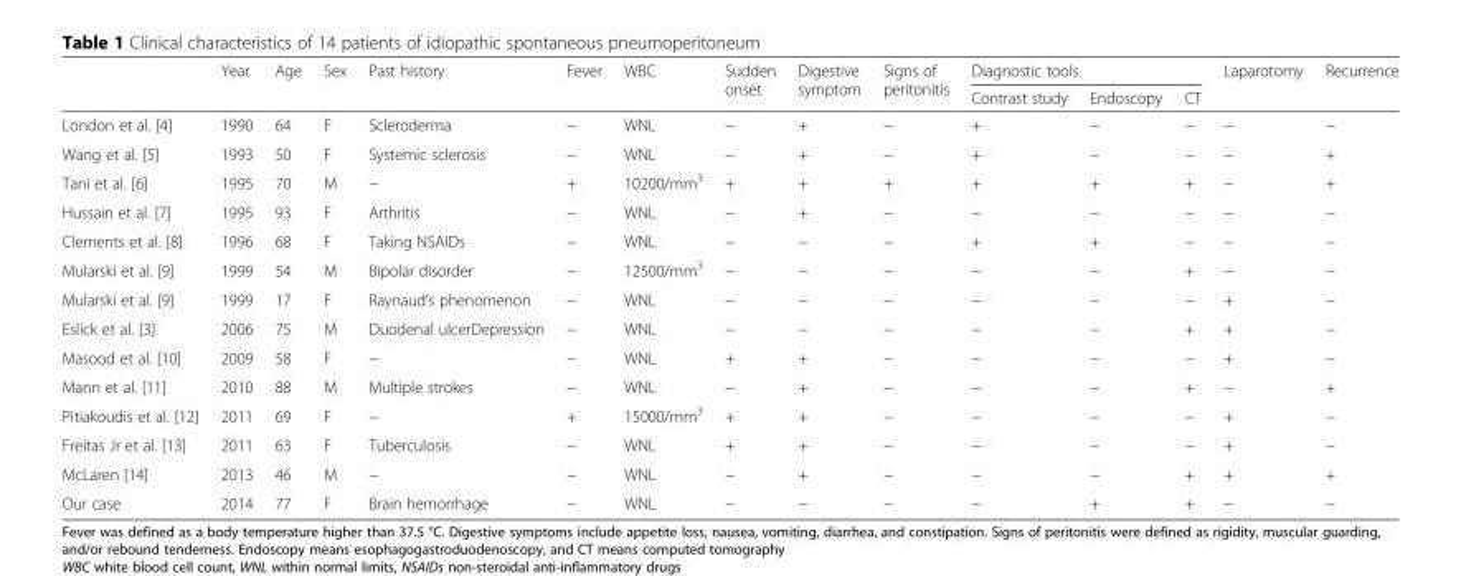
<table><thead><tr><td rowspan="2"></td><td rowspan="2">Year</td><td rowspan="2">Age</td><td rowspan="2">Sex</td><td rowspan="2">Past history</td><td rowspan="2">Fever</td><td rowspan="2">WBC</td><td rowspan="2">Sudden onset</td><td rowspan="2">Digestive symptom</td><td rowspan="2">Signs of peritonitis</td><td colspan="3">Diagnostic tools</td><td rowspan="2">Laparotomy</td><td rowspan="2">Recurrence</td></tr><tr><td>Contrast study</td><td>Endoscopy</td><td>CT</td></tr></thead><tbody><tr><td>London et al. [4]</td><td>1990</td><td>64</td><td>F</td><td>Scleroderma</td><td>−</td><td>WNL</td><td>−</td><td>+</td><td>−</td><td>+</td><td>−</td><td>−</td><td>−</td><td>−</td></tr><tr><td>Wang et al. [5]</td><td>1993</td><td>50</td><td>F</td><td>Systemic sclerosis</td><td>−</td><td>WNL</td><td>−</td><td>+</td><td>−</td><td>+</td><td>−</td><td>−</td><td>−</td><td>+</td></tr><tr><td>Tani et al. [6]</td><td>1995</td><td>70</td><td>M</td><td>−</td><td>+</td><td>10200/mm<sup>3</sup></td><td>+</td><td>+</td><td>+</td><td>+</td><td>+</td><td>+</td><td>−</td><td>+</td></tr><tr><td>Hussain et al. [7]</td><td>1995</td><td>93</td><td>F</td><td>Arthritis</td><td>−</td><td>WNL</td><td>−</td><td>+</td><td>−</td><td>−</td><td>−</td><td>−</td><td>−</td><td>−</td></tr><tr><td>Clements et al. [8]</td><td>1996</td><td>68</td><td>F</td><td>Taking NSAIDs</td><td>−</td><td>WNL</td><td>−</td><td>−</td><td>−</td><td>+</td><td>+</td><td>−</td><td>−</td><td>−</td></tr><tr><td>Mularski et al. [9]</td><td>1999</td><td>54</td><td>M</td><td>Bipolar disorder</td><td>−</td><td>12500/mm<sup>3</sup></td><td>−</td><td>−</td><td>−</td><td>−</td><td>−</td><td>+</td><td>−</td><td>−</td></tr><tr><td>Mularski et al. [9]</td><td>1999</td><td>17</td><td>F</td><td>Raynaud’s phenomenon</td><td>−</td><td>WNL</td><td>−</td><td>−</td><td>−</td><td>−</td><td>−</td><td>−</td><td>+</td><td>−</td></tr><tr><td>Eslick et al. [3]</td><td>2006</td><td>75</td><td>M</td><td>Duodenal ulcerDepression</td><td>−</td><td>WNL</td><td>−</td><td>−</td><td>−</td><td>−</td><td>−</td><td>+</td><td>+</td><td>−</td></tr><tr><td>Masood et al. [10]</td><td>2009</td><td>58</td><td>F</td><td>−</td><td>−</td><td>WNL</td><td>+</td><td>+</td><td>−</td><td>−</td><td>−</td><td>−</td><td>+</td><td>−</td></tr><tr><td>Mann et al. [11]</td><td>2010</td><td>88</td><td>M</td><td>Multiple strokes</td><td>−</td><td>WNL</td><td>−</td><td>+</td><td>−</td><td>−</td><td>−</td><td>+</td><td>−</td><td>+</td></tr><tr><td>Pitiakoudis et al. [12]</td><td>2011</td><td>69</td><td>F</td><td>−</td><td>+</td><td>15000/mm<sup>3</sup></td><td>+</td><td>+</td><td>−</td><td>−</td><td>−</td><td>−</td><td>+</td><td>−</td></tr><tr><td>Freitas Jr et al. [13]</td><td>2011</td><td>63</td><td>F</td><td>Tuberculosis</td><td>−</td><td>WNL</td><td>+</td><td>+</td><td>−</td><td>−</td><td>−</td><td>−</td><td>+</td><td>−</td></tr><tr><td>McLaren [14]</td><td>2013</td><td>46</td><td>M</td><td>−</td><td>−</td><td>WNL</td><td>−</td><td>+</td><td>−</td><td>−</td><td>−</td><td>+</td><td>+</td><td>+</td></tr><tr><td>Our case</td><td>2014</td><td>77</td><td>F</td><td>Brain hemorrhage</td><td>−</td><td>WNL</td><td>−</td><td>−</td><td>−</td><td>−</td><td>+</td><td>+</td><td>−</td><td>−</td></tr></tbody></table>